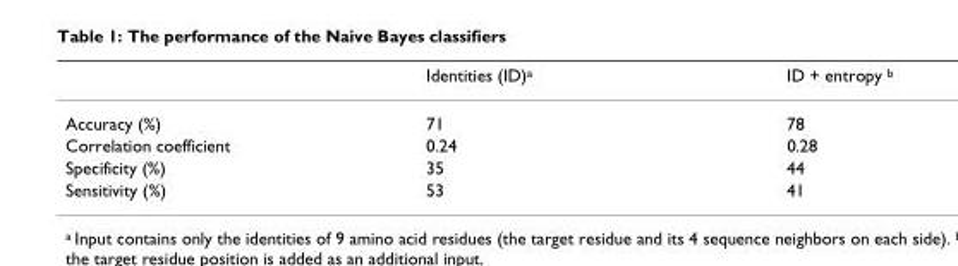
<table><thead><tr><td></td><td>Identities (ID)a</td><td>ID + entropy b</td></tr></thead><tbody><tr><td>Accuracy (%)</td><td>71</td><td>78</td></tr><tr><td>Correlation coefficient</td><td>0.24</td><td>0.28</td></tr><tr><td>Specificity (%)</td><td>35</td><td>44</td></tr><tr><td>Sensitivity (%)</td><td>53</td><td>41</td></tr></tbody></table>